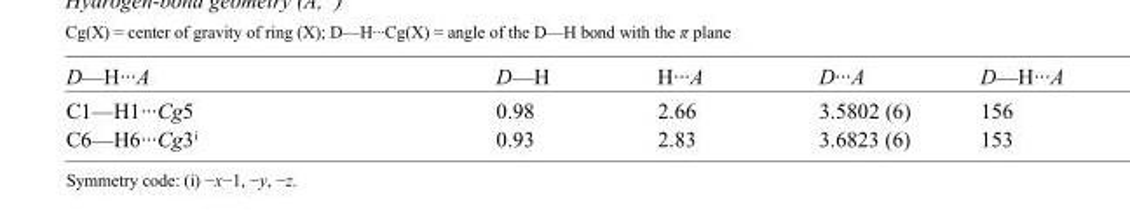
<table><tbody><tr><td>D—H···A</td><td>D—H</td><td>H···A</td><td>D···A</td><td>D—H···A</td></tr><tr><td>C1—H1···Cg5</td><td>0.98</td><td>2.66</td><td>3.5802 (6)</td><td>156</td></tr><tr><td>C6—H6···Cg3<sup>i</sup></td><td>0.93</td><td>2.83</td><td>3.6823 (6)</td><td>153</td></tr></tbody></table>